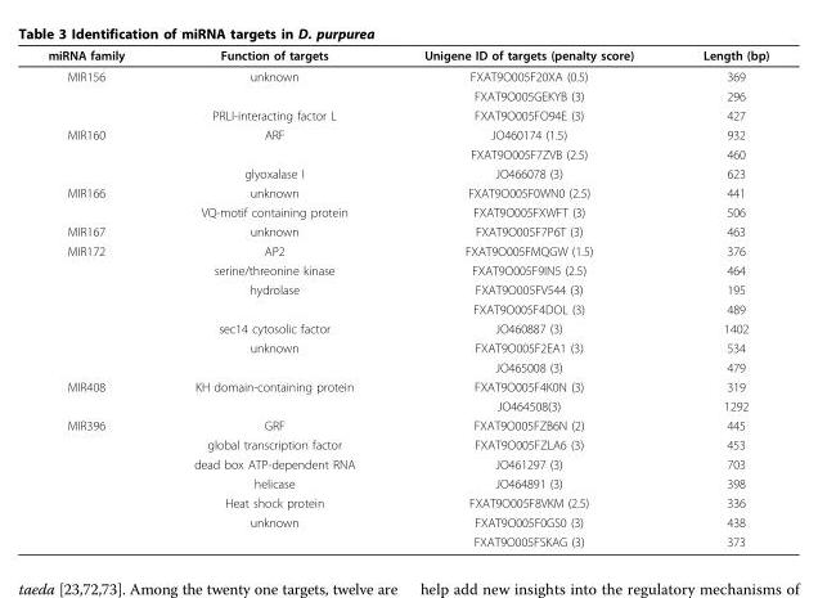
<table><thead><tr><td>miRNA family</td><td>Function of targets</td><td>Unigene ID of targets (penalty score)</td><td>Length (bp)</td></tr></thead><tbody><tr><td rowspan="3">MIR156</td><td>unknown</td><td>FXAT9O005F20XA (0.5)</td><td>369</td></tr><tr><td></td><td>FXAT9O005GEKYB (3)</td><td>296</td></tr><tr><td>PRLI-interacting factor L</td><td>FXAT9O005FO94E (3)</td><td>427</td></tr><tr><td rowspan="3">MIR160</td><td>ARF</td><td>JO460174 (1.5)</td><td>932</td></tr><tr><td></td><td>FXAT9O005F7ZVB (2.5)</td><td>460</td></tr><tr><td>glyoxalase I</td><td>JO466078 (3)</td><td>623</td></tr><tr><td rowspan="2">MIR166</td><td>unknown</td><td>FXAT9O005F0WN0 (2.5)</td><td>441</td></tr><tr><td>VQ-motif containing protein</td><td>FXAT9O005FXWFT (3)</td><td>506</td></tr><tr><td>MIR167</td><td>unknown</td><td>FXAT9O005F7P6T (3)</td><td>463</td></tr><tr><td rowspan="7">MIR172</td><td>AP2</td><td>FXAT9O005FMQGW (1.5)</td><td>376</td></tr><tr><td>serine/threonine kinase</td><td>FXAT9O005F9IN5 (2.5)</td><td>464</td></tr><tr><td>hydrolase</td><td>FXAT9O005FV544 (3)</td><td>195</td></tr><tr><td></td><td>FXAT9O005F4DOL (3)</td><td>489</td></tr><tr><td>sec14 cytosolic factor</td><td>JO460887 (3)</td><td>1402</td></tr><tr><td>unknown</td><td>FXAT9O005F2EA1 (3)</td><td>534</td></tr><tr><td></td><td>JO465008 (3)</td><td>479</td></tr><tr><td rowspan="2">MIR408</td><td>KH domain-containing protein</td><td>FXAT9O005F4K0N (3)</td><td>319</td></tr><tr><td></td><td>JO464508(3)</td><td>1292</td></tr><tr><td rowspan="7">MIR396</td><td>GRF</td><td>FXAT9O005FZB6N (2)</td><td>445</td></tr><tr><td>global transcription factor</td><td>FXAT9O005FZLA6 (3)</td><td>453</td></tr><tr><td>dead box ATP-dependent RNA</td><td>JO461297 (3)</td><td>703</td></tr><tr><td>helicase</td><td>JO464891 (3)</td><td>398</td></tr><tr><td>Heat shock protein</td><td>FXAT9O005F8VKM (2.5)</td><td>336</td></tr><tr><td>unknown</td><td>FXAT9O005F0GS0 (3)</td><td>438</td></tr><tr><td></td><td>FXAT9O005FSKAG (3)</td><td>373</td></tr></tbody></table>